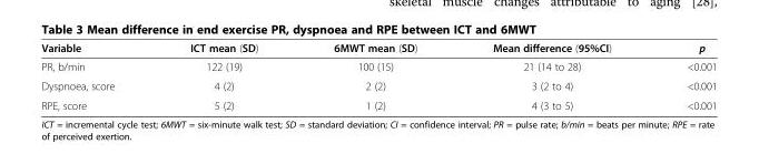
<table><thead><tr><td>Variable</td><td>ICT mean (SD)</td><td>6MWT mean (SD)</td><td>Mean difference (95%CI)</td><td>p</td></tr></thead><tbody><tr><td>PR, b/min</td><td>122 (19)</td><td>100 (15)</td><td>21 (14 to 28)</td><td>&lt;0.001</td></tr><tr><td>Dyspnoea, score</td><td>4 (2)</td><td>2 (2)</td><td>3 (2 to 4)</td><td>&lt;0.001</td></tr><tr><td>RPE, score</td><td>5 (2)</td><td>1 (2)</td><td>4 (3 to 5)</td><td>&lt;0.001</td></tr></tbody></table>